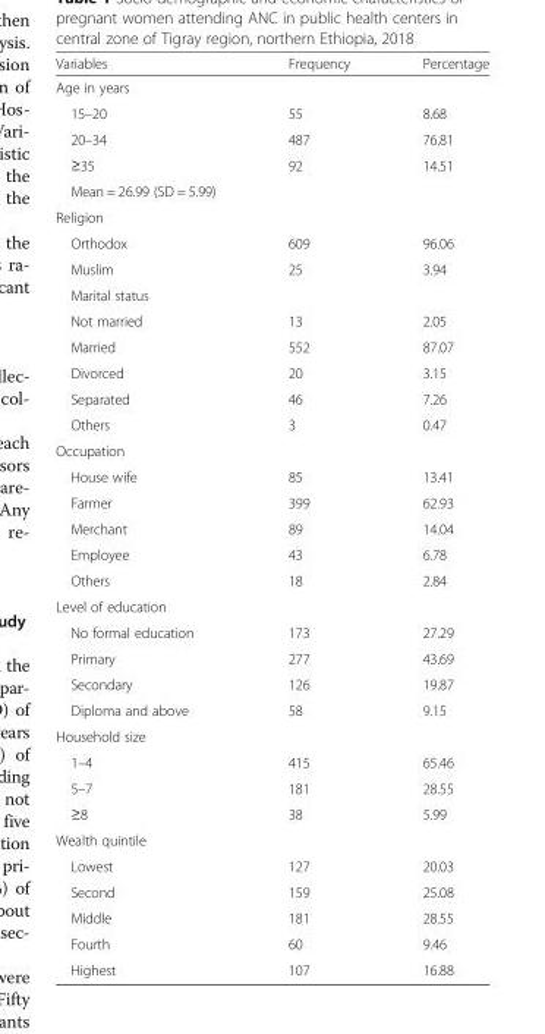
<table><thead><tr><td>Variables</td><td>Frequency</td><td>Percentage</td></tr></thead><tbody><tr><td colspan="3">Age in years</td></tr><tr><td>15–20</td><td>55</td><td>8.68</td></tr><tr><td>20–34</td><td>487</td><td>76.81</td></tr><tr><td>≥35</td><td>92</td><td>14.51</td></tr><tr><td colspan="3">Mean = 26.99 (SD = 5.99)</td></tr><tr><td colspan="3">Religion</td></tr><tr><td>Orthodox</td><td>609</td><td>96.06</td></tr><tr><td>Muslim</td><td>25</td><td>3.94</td></tr><tr><td colspan="3">Marital status</td></tr><tr><td>Not married</td><td>13</td><td>2.05</td></tr><tr><td>Married</td><td>552</td><td>87.07</td></tr><tr><td>Divorced</td><td>20</td><td>3.15</td></tr><tr><td>Separated</td><td>46</td><td>7.26</td></tr><tr><td>Others</td><td>3</td><td>0.47</td></tr><tr><td colspan="3">Occupation</td></tr><tr><td>House wife</td><td>85</td><td>13.41</td></tr><tr><td>Farmer</td><td>399</td><td>62.93</td></tr><tr><td>Merchant</td><td>89</td><td>14.04</td></tr><tr><td>Employee</td><td>43</td><td>6.78</td></tr><tr><td>Others</td><td>18</td><td>2.84</td></tr><tr><td colspan="3">Level of education</td></tr><tr><td>No formal education</td><td>173</td><td>27.29</td></tr><tr><td>Primary</td><td>277</td><td>43.69</td></tr><tr><td>Secondary</td><td>126</td><td>19.87</td></tr><tr><td>Diploma and above</td><td>58</td><td>9.15</td></tr><tr><td colspan="3">Household size</td></tr><tr><td>1–4</td><td>415</td><td>65.46</td></tr><tr><td>5–7</td><td>181</td><td>28.55</td></tr><tr><td>≥8</td><td>38</td><td>5.99</td></tr><tr><td colspan="3">Wealth quintile</td></tr><tr><td>Lowest</td><td>127</td><td>20.03</td></tr><tr><td>Second</td><td>159</td><td>25.08</td></tr><tr><td>Middle</td><td>181</td><td>28.55</td></tr><tr><td>Fourth</td><td>60</td><td>9.46</td></tr><tr><td>Highest</td><td>107</td><td>16.88</td></tr></tbody></table>